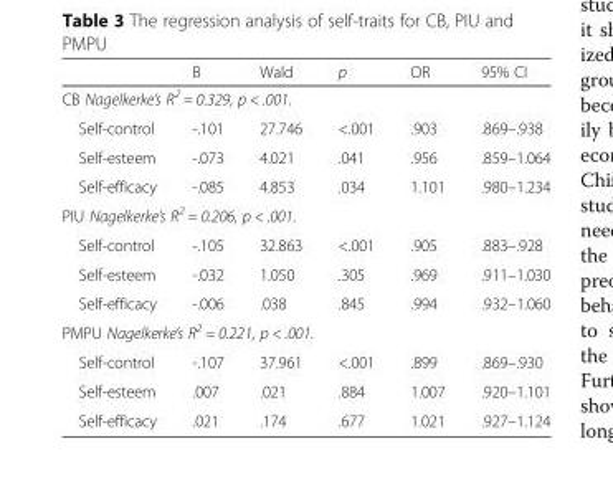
<table><thead><tr><td></td><td>B</td><td>Wald</td><td>p</td><td>OR</td><td>95% CI</td></tr></thead><tbody><tr><td colspan="6">CB Nagelkerke’s R<sup>2</sup> = 0.329, p &lt; .001.</td></tr><tr><td>Self-control</td><td>-.101</td><td>27.746</td><td>&lt;.001</td><td>.903</td><td>.869–.938</td></tr><tr><td>Self-esteem</td><td>-.073</td><td>4.021</td><td>.041</td><td>.956</td><td>.859–1.064</td></tr><tr><td>Self-efficacy</td><td>-.085</td><td>4.853</td><td>.034</td><td>1.101</td><td>.980–1.234</td></tr><tr><td colspan="6">PIU Nagelkerke’s R<sup>2</sup> = 0.206, p &lt; .001.</td></tr><tr><td>Self-control</td><td>-.105</td><td>32.863</td><td>&lt;.001</td><td>.905</td><td>.883–.928</td></tr><tr><td>Self-esteem</td><td>-.032</td><td>1.050</td><td>.305</td><td>.969</td><td>.911–1.030</td></tr><tr><td>Self-efficacy</td><td>-.006</td><td>.038</td><td>.845</td><td>.994</td><td>.932–1.060</td></tr><tr><td colspan="6">PMPU Nagelkerke’s R<sup>2</sup> = 0.221, p &lt; .001.</td></tr><tr><td>Self-control</td><td>-.107</td><td>37.961</td><td>&lt;.001</td><td>.899</td><td>.869–.930</td></tr><tr><td>Self-esteem</td><td>.007</td><td>.021</td><td>.884</td><td>1.007</td><td>.920–1.101</td></tr><tr><td>Self-efficacy</td><td>.021</td><td>.174</td><td>.677</td><td>1.021</td><td>.927–1.124</td></tr></tbody></table>